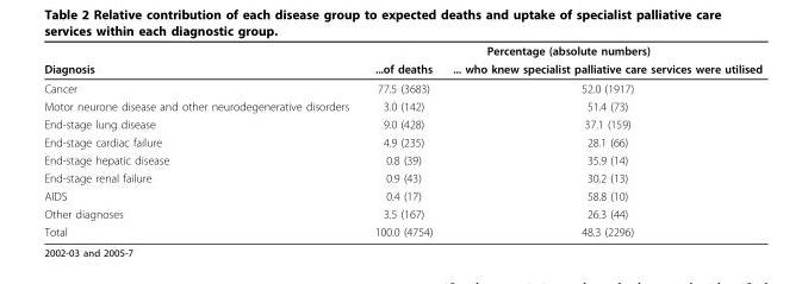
<table><thead><tr><td rowspan="2">Diagnosis</td><td colspan="2">Percentage (absolute numbers)</td></tr><tr><td>...of deaths</td><td>... who knew specialist palliative care services were utilised</td></tr></thead><tbody><tr><td>Cancer</td><td>77.5 (3683)</td><td>52.0 (1917)</td></tr><tr><td>Motor neurone disease and other neurodegenerative disorders</td><td>3.0 (142)</td><td>51.4 (73)</td></tr><tr><td>End-stage lung disease</td><td>9.0 (428)</td><td>37.1 (159)</td></tr><tr><td>End-stage cardiac failure</td><td>4.9 (235)</td><td>28.1 (66)</td></tr><tr><td>End-stage hepatic disease</td><td>0.8 (39)</td><td>35.9 (14)</td></tr><tr><td>End-stage renal failure</td><td>0.9 (43)</td><td>30.2 (13)</td></tr><tr><td>AIDS</td><td>0.4 (17)</td><td>58.8 (10)</td></tr><tr><td>Other diagnoses</td><td>3.5 (167)</td><td>26.3 (44)</td></tr><tr><td>Total</td><td>100.0 (4754)</td><td>48.3 (2296)</td></tr></tbody></table>